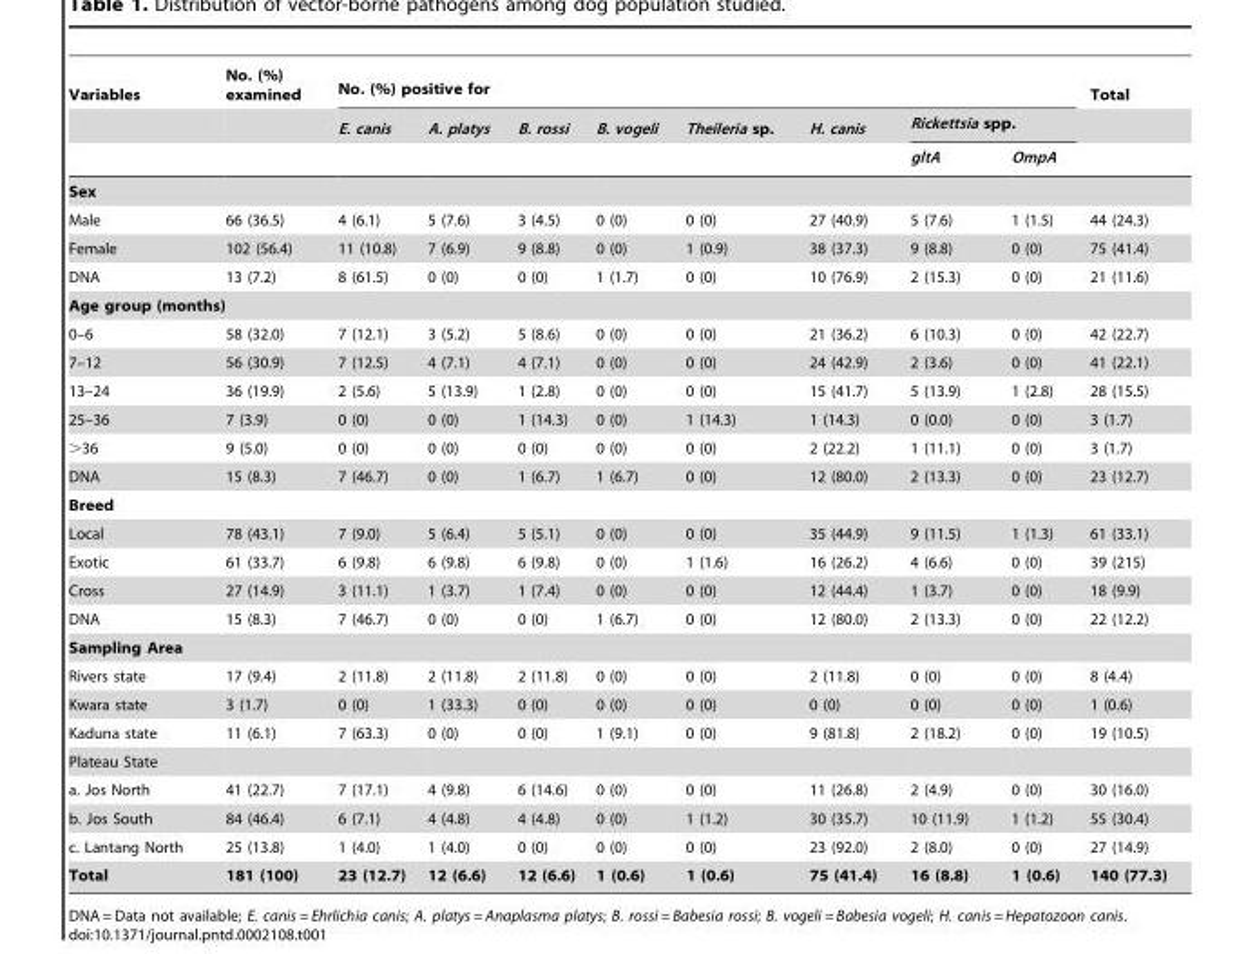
<table><thead><tr><td rowspan="3">Variables</td><td rowspan="3">No. (%) examined</td><td colspan="8">No. (%) positive for</td><td rowspan="3">Total</td></tr><tr><td rowspan="2">E. canis</td><td rowspan="2">A. platys</td><td rowspan="2">B. rossi</td><td rowspan="2">B. vogeli</td><td rowspan="2">Theileria sp.</td><td rowspan="2">H. canis</td><td colspan="2">Rickettsia spp.</td></tr><tr><td>gltA</td><td>OmpA</td></tr></thead><tbody><tr><td colspan="11">Sex</td></tr><tr><td>Male</td><td>66 (36.5)</td><td>4 (6.1)</td><td>5 (7.6)</td><td>3 (4.5)</td><td>0 (0)</td><td>0 (0)</td><td>27 (40.9)</td><td>5 (7.6)</td><td>1 (1.5)</td><td>44 (24.3)</td></tr><tr><td>Female</td><td>102 (56.4)</td><td>11 (10.8)</td><td>7 (6.9)</td><td>9 (8.8)</td><td>0 (0)</td><td>1 (0.9)</td><td>38 (37.3)</td><td>9 (8.8)</td><td>0 (0)</td><td>75 (41.4)</td></tr><tr><td>DNA</td><td>13 (7.2)</td><td>8 (61.5)</td><td>0 (0)</td><td>0 (0)</td><td>1 (1.7)</td><td>0 (0)</td><td>10 (76.9)</td><td>2 (15.3)</td><td>0 (0)</td><td>21 (11.6)</td></tr><tr><td colspan="11">Age group (months)</td></tr><tr><td>0–6</td><td>58 (32.0)</td><td>7 (12.1)</td><td>3 (5.2)</td><td>5 (8.6)</td><td>0 (0)</td><td>0 (0)</td><td>21 (36.2)</td><td>6 (10.3)</td><td>0 (0)</td><td>42 (22.7)</td></tr><tr><td>7–12</td><td>56 (30.9)</td><td>7 (12.5)</td><td>4 (7.1)</td><td>4 (7.1)</td><td>0 (0)</td><td>0 (0)</td><td>24 (42.9)</td><td>2 (3.6)</td><td>0 (0)</td><td>41 (22.1)</td></tr><tr><td>13–24</td><td>36 (19.9)</td><td>2 (5.6)</td><td>5 (13.9)</td><td>1 (2.8)</td><td>0 (0)</td><td>0 (0)</td><td>15 (41.7)</td><td>5 (13.9)</td><td>1 (2.8)</td><td>28 (15.5)</td></tr><tr><td>25–36</td><td>7 (3.9)</td><td>0 (0)</td><td>0 (0)</td><td>1 (14.3)</td><td>0 (0)</td><td>1 (14.3)</td><td>1 (14.3)</td><td>0 (0.0)</td><td>0 (0)</td><td>3 (1.7)</td></tr><tr><td>&gt;36</td><td>9 (5.0)</td><td>0 (0)</td><td>0 (0)</td><td>0 (0)</td><td>0 (0)</td><td>0 (0)</td><td>2 (22.2)</td><td>1 (11.1)</td><td>0 (0)</td><td>3 (1.7)</td></tr><tr><td>DNA</td><td>15 (8.3)</td><td>7 (46.7)</td><td>0 (0)</td><td>1 (6.7)</td><td>1 (6.7)</td><td>0 (0)</td><td>12 (80.0)</td><td>2 (13.3)</td><td>0 (0)</td><td>23 (12.7)</td></tr><tr><td colspan="11">Breed</td></tr><tr><td>Local</td><td>78 (43.1)</td><td>7 (9.0)</td><td>5 (6.4)</td><td>5 (5.1)</td><td>0 (0)</td><td>0 (0)</td><td>35 (44.9)</td><td>9 (11.5)</td><td>1 (1.3)</td><td>61 (33.1)</td></tr><tr><td>Exotic</td><td>61 (33.7)</td><td>6 (9.8)</td><td>6 (9.8)</td><td>6 (9.8)</td><td>0 (0)</td><td>1 (1.6)</td><td>16 (26.2)</td><td>4 (6.6)</td><td>0 (0)</td><td>39 (215)</td></tr><tr><td>Cross</td><td>27 (14.9)</td><td>3 (11.1)</td><td>1 (3.7)</td><td>1 (7.4)</td><td>0 (0)</td><td>0 (0)</td><td>12 (44.4)</td><td>1 (3.7)</td><td>0 (0)</td><td>18 (9.9)</td></tr><tr><td>DNA</td><td>15 (8.3)</td><td>7 (46.7)</td><td>0 (0)</td><td>0 (0)</td><td>1 (6.7)</td><td>0 (0)</td><td>12 (80.0)</td><td>2 (13.3)</td><td>0 (0)</td><td>22 (12.2)</td></tr><tr><td colspan="11">Sampling Area</td></tr><tr><td>Rivers state</td><td>17 (9.4)</td><td>2 (11.8)</td><td>2 (11.8)</td><td>2 (11.8)</td><td>0 (0)</td><td>0 (0)</td><td>2 (11.8)</td><td>0 (0)</td><td>0 (0)</td><td>8 (4.4)</td></tr><tr><td>Kwara state</td><td>3 (1.7)</td><td>0 (0)</td><td>1 (33.3)</td><td>0 (0)</td><td>0 (0)</td><td>0 (0)</td><td>0 (0)</td><td>0 (0)</td><td>0 (0)</td><td>1 (0.6)</td></tr><tr><td>Kaduna state</td><td>11 (6.1)</td><td>7 (63.3)</td><td>0 (0)</td><td>0 (0)</td><td>1 (9.1)</td><td>0 (0)</td><td>9 (81.8)</td><td>2 (18.2)</td><td>0 (0)</td><td>19 (10.5)</td></tr><tr><td colspan="11">Plateau State</td></tr><tr><td>a. Jos North</td><td>41 (22.7)</td><td>7 (17.1)</td><td>4 (9.8)</td><td>6 (14.6)</td><td>0 (0)</td><td>0 (0)</td><td>11 (26.8)</td><td>2 (4.9)</td><td>0 (0)</td><td>30 (16.0)</td></tr><tr><td>b. Jos South</td><td>84 (46.4)</td><td>6 (7.1)</td><td>4 (4.8)</td><td>4 (4.8)</td><td>0 (0)</td><td>1 (1.2)</td><td>30 (35.7)</td><td>10 (11.9)</td><td>1 (1.2)</td><td>55 (30.4)</td></tr><tr><td>c. Lantang North</td><td>25 (13.8)</td><td>1 (4.0)</td><td>1 (4.0)</td><td>0 (0)</td><td>0 (0)</td><td>0 (0)</td><td>23 (92.0)</td><td>2 (8.0)</td><td>0 (0)</td><td>27 (14.9)</td></tr><tr><td>Total</td><td>181 (100)</td><td>23 (12.7)</td><td>12 (6.6)</td><td>12 (6.6)</td><td>1 (0.6)</td><td>1 (0.6)</td><td>75 (41.4)</td><td>16 (8.8)</td><td>1 (0.6)</td><td>140 (77.3)</td></tr></tbody></table>